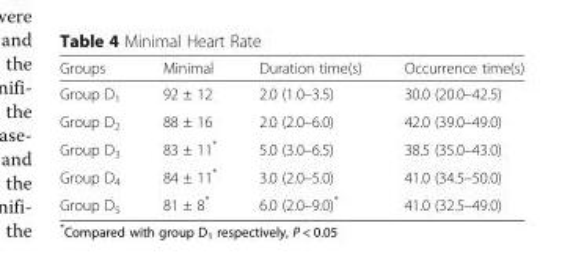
<table><thead><tr><td>Groups</td><td>Minimal</td><td>Duration time(s)</td><td>Occurrence time(s)</td></tr></thead><tbody><tr><td>Group D<sub>1</sub></td><td>92 ± 12</td><td>2.0 (1.0–3.5)</td><td>30.0 (20.0–42.5)</td></tr><tr><td>Group D<sub>2</sub></td><td>88 ± 16</td><td>2.0 (2.0–6.0)</td><td>42.0 (39.0–49.0)</td></tr><tr><td>Group D<sub>3</sub></td><td>83 ± 11*</td><td>5.0 (3.0–6.5)</td><td>38.5 (35.0–43.0)</td></tr><tr><td>Group D<sub>4</sub></td><td>84 ± 11*</td><td>3.0 (2.0–5.0)</td><td>41.0 (34.5–50.0)</td></tr><tr><td>Group D<sub>5</sub></td><td>81 ± 8*</td><td>6.0 (2.0–9.0)*</td><td>41.0 (32.5–49.0)</td></tr></tbody></table>